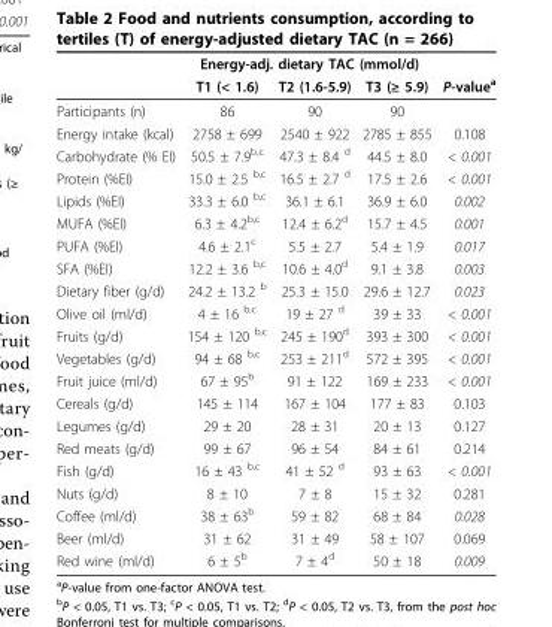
<table><thead><tr><td rowspan="2"></td><td colspan="3">Energy-adj. dietary TAC (mmol/d)</td><td rowspan="2">P-value<sup>a</sup></td></tr><tr><td>T1 (&lt; 1.6)</td><td>T2 (1.6-5.9)</td><td>T3 (≥ 5.9)</td></tr></thead><tbody><tr><td>Participants (n)</td><td>86</td><td>90</td><td>90</td><td></td></tr><tr><td>Energy intake (kcal)</td><td>2758 ± 699</td><td>2540 ± 922</td><td>2785 ± 855</td><td>0.108</td></tr><tr><td>Carbohydrate (% EI)</td><td>50.5 ± 7.9<sup>b,c</sup></td><td>47.3 ± 8.4 <sup>d</sup></td><td>44.5 ± 8.0</td><td>&lt; 0.001</td></tr><tr><td>Protein (%EI)</td><td>15.0 ± 2.5 <sup>b,c</sup></td><td>16.5 ± 2.7 <sup>d</sup></td><td>17.5 ± 2.6</td><td>&lt; 0.001</td></tr><tr><td>Lipids (%EI)</td><td>33.3 ± 6.0 <sup>b,c</sup></td><td>36.1 ± 6.1</td><td>36.9 ± 6.0</td><td>0.002</td></tr><tr><td>MUFA (%EI)</td><td>6.3 ± 4.2<sup>b,c</sup></td><td>12.4 ± 6.2<sup>d</sup></td><td>15.7 ± 4.5</td><td>0.001</td></tr><tr><td>PUFA (%EI)</td><td>4.6 ± 2.1<sup>c</sup></td><td>5.5 ± 2.7</td><td>5.4 ± 1.9</td><td>0.017</td></tr><tr><td>SFA (%EI)</td><td>12.2 ± 3.6 <sup>b,c</sup></td><td>10.6 ± 4.0<sup>d</sup></td><td>9.1 ± 3.8</td><td>0.003</td></tr><tr><td>Dietary fiber (g/d)</td><td>24.2 ± 13.2 <sup>b</sup></td><td>25.3 ± 15.0</td><td>29.6 ± 12.7</td><td>0.023</td></tr><tr><td>Olive oil (ml/d)</td><td>4 ± 16 <sup>b,c</sup></td><td>19 ± 27 <sup>d</sup></td><td>39 ± 33</td><td>&lt; 0.001</td></tr><tr><td>Fruits (g/d)</td><td>154 ± 120 <sup>b,c</sup></td><td>245 ± 190<sup>d</sup></td><td>393 ± 300</td><td>&lt; 0.001</td></tr><tr><td>Vegetables (g/d)</td><td>94 ± 68 <sup>b,c</sup></td><td>253 ± 211<sup>d</sup></td><td>572 ± 395</td><td>&lt; 0.001</td></tr><tr><td>Fruit juice (ml/d)</td><td>67 ± 95<sup>b</sup></td><td>91 ± 122</td><td>169 ± 233</td><td>&lt; 0.001</td></tr><tr><td>Cereals (g/d)</td><td>145 ± 114</td><td>167 ± 104</td><td>177 ± 83</td><td>0.103</td></tr><tr><td>Legumes (g/d)</td><td>29 ± 20</td><td>28 ± 31</td><td>20 ± 13</td><td>0.127</td></tr><tr><td>Red meats (g/d)</td><td>99 ± 67</td><td>96 ± 54</td><td>84 ± 61</td><td>0.214</td></tr><tr><td>Fish (g/d)</td><td>16 ± 43 <sup>b,c</sup></td><td>41 ± 52 <sup>d</sup></td><td>93 ± 63</td><td>&lt; 0.001</td></tr><tr><td>Nuts (g/d)</td><td>8 ± 10</td><td>7 ± 8</td><td>15 ± 32</td><td>0.281</td></tr><tr><td>Coffee (ml/d)</td><td>38 ± 63<sup>b</sup></td><td>59 ± 82</td><td>68 ± 84</td><td>0.028</td></tr><tr><td>Beer (ml/d)</td><td>31 ± 62</td><td>31 ± 49</td><td>58 ± 107</td><td>0.069</td></tr><tr><td>Red wine (ml/d)</td><td>6 ± 5<sup>b</sup></td><td>7 ± 4<sup>d</sup></td><td>50 ± 18</td><td>0.009</td></tr></tbody></table>